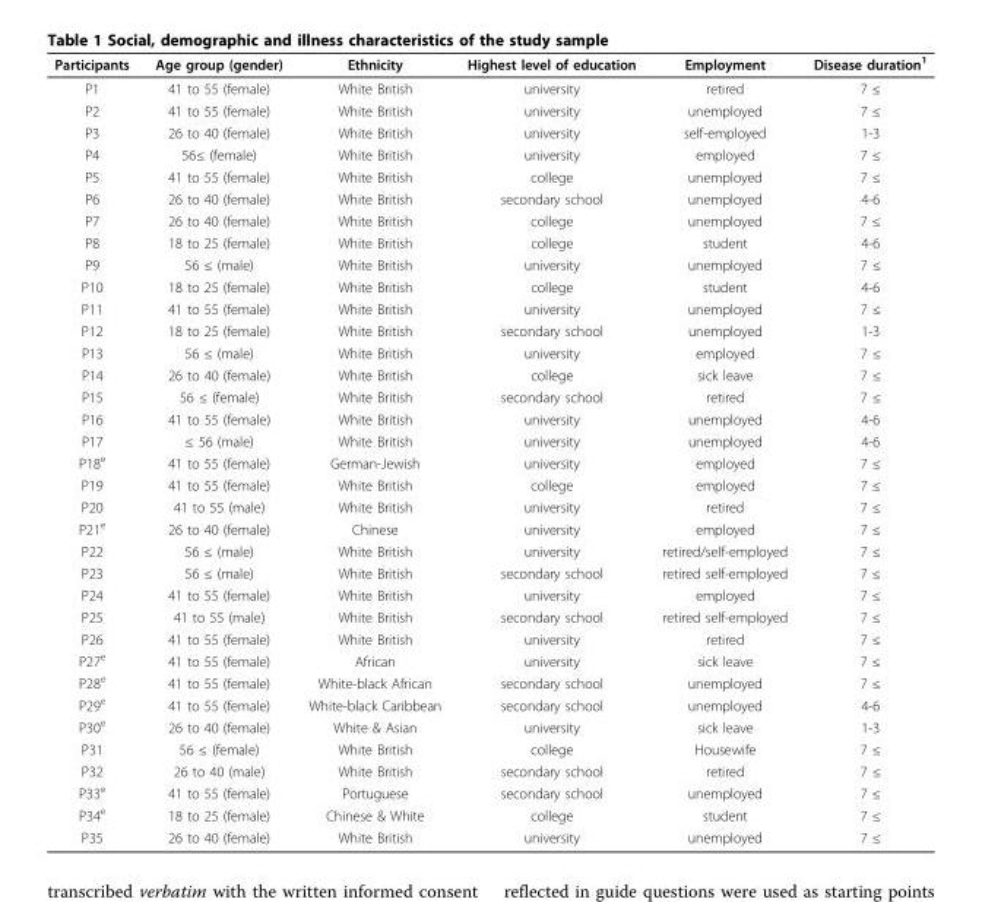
<table><thead><tr><td>Participants</td><td>Age group (gender)</td><td>Ethnicity</td><td>Highest level of education</td><td>Employment</td><td>Disease duration<sup>1</sup></td></tr></thead><tbody><tr><td>P1</td><td>41 to 55 (female)</td><td>White British</td><td>university</td><td>retired</td><td>7 ≤</td></tr><tr><td>P2</td><td>41 to 55 (female)</td><td>White British</td><td>university</td><td>unemployed</td><td>7 ≤</td></tr><tr><td>P3</td><td>26 to 40 (female)</td><td>White British</td><td>university</td><td>self-employed</td><td>1-3</td></tr><tr><td>P4</td><td>56≤ (female)</td><td>White British</td><td>university</td><td>employed</td><td>7 ≤</td></tr><tr><td>P5</td><td>41 to 55 (female)</td><td>White British</td><td>college</td><td>unemployed</td><td>7 ≤</td></tr><tr><td>P6</td><td>26 to 40 (female)</td><td>White British</td><td>secondary school</td><td>unemployed</td><td>4-6</td></tr><tr><td>P7</td><td>26 to 40 (female)</td><td>White British</td><td>college</td><td>unemployed</td><td>7 ≤</td></tr><tr><td>P8</td><td>18 to 25 (female)</td><td>White British</td><td>college</td><td>student</td><td>4-6</td></tr><tr><td>P9</td><td>56 ≤ (male)</td><td>White British</td><td>university</td><td>unemployed</td><td>7 ≤</td></tr><tr><td>P10</td><td>18 to 25 (female)</td><td>White British</td><td>college</td><td>student</td><td>4-6</td></tr><tr><td>P11</td><td>41 to 55 (female)</td><td>White British</td><td>university</td><td>unemployed</td><td>7 ≤</td></tr><tr><td>P12</td><td>18 to 25 (female)</td><td>White British</td><td>secondary school</td><td>unemployed</td><td>1-3</td></tr><tr><td>P13</td><td>56 ≤ (male)</td><td>White British</td><td>university</td><td>employed</td><td>7 ≤</td></tr><tr><td>P14</td><td>26 to 40 (female)</td><td>White British</td><td>college</td><td>sick leave</td><td>7 ≤</td></tr><tr><td>P15</td><td>56 ≤ (female)</td><td>White British</td><td>secondary school</td><td>retired</td><td>7 ≤</td></tr><tr><td>P16</td><td>41 to 55 (female)</td><td>White British</td><td>university</td><td>unemployed</td><td>4-6</td></tr><tr><td>P17</td><td>≤ 56 (male)</td><td>White British</td><td>university</td><td>unemployed</td><td>4-6</td></tr><tr><td>P18<sup>e</sup></td><td>41 to 55 (female)</td><td>German-Jewish</td><td>university</td><td>employed</td><td>7 ≤</td></tr><tr><td>P19</td><td>41 to 55 (female)</td><td>White British</td><td>college</td><td>employed</td><td>7 ≤</td></tr><tr><td>P20</td><td>41 to 55 (male)</td><td>White British</td><td>university</td><td>retired</td><td>7 ≤</td></tr><tr><td>P21<sup>e</sup></td><td>26 to 40 (female)</td><td>Chinese</td><td>university</td><td>employed</td><td>7 ≤</td></tr><tr><td>P22</td><td>56 ≤ (male)</td><td>White British</td><td>university</td><td>retired/self-employed</td><td>7 ≤</td></tr><tr><td>P23</td><td>56 ≤ (male)</td><td>White British</td><td>secondary school</td><td>retired self-employed</td><td>7 ≤</td></tr><tr><td>P24</td><td>41 to 55 (female)</td><td>White British</td><td>university</td><td>employed</td><td>7 ≤</td></tr><tr><td>P25</td><td>41 to 55 (male)</td><td>White British</td><td>secondary school</td><td>retired self-employed</td><td>7 ≤</td></tr><tr><td>P26</td><td>41 to 55 (female)</td><td>White British</td><td>university</td><td>retired</td><td>7 ≤</td></tr><tr><td>P27<sup>e</sup></td><td>41 to 55 (female)</td><td>African</td><td>university</td><td>sick leave</td><td>7 ≤</td></tr><tr><td>P28<sup>e</sup></td><td>41 to 55 (female)</td><td>White-black African</td><td>secondary school</td><td>unemployed</td><td>7 ≤</td></tr><tr><td>P29<sup>e</sup></td><td>41 to 55 (female)</td><td>White-black Caribbean</td><td>secondary school</td><td>unemployed</td><td>4-6</td></tr><tr><td>P30<sup>e</sup></td><td>26 to 40 (female)</td><td>White &amp; Asian</td><td>university</td><td>sick leave</td><td>1-3</td></tr><tr><td>P31</td><td>56 ≤ (female)</td><td>White British</td><td>college</td><td>Housewife</td><td>7 ≤</td></tr><tr><td>P32</td><td>26 to 40 (male)</td><td>White British</td><td>secondary school</td><td>retired</td><td>7 ≤</td></tr><tr><td>P33<sup>e</sup></td><td>41 to 55 (female)</td><td>Portuguese</td><td>secondary school</td><td>unemployed</td><td>7 ≤</td></tr><tr><td>P34<sup>e</sup></td><td>18 to 25 (female)</td><td>Chinese &amp; White</td><td>college</td><td>student</td><td>7 ≤</td></tr><tr><td>P35</td><td>26 to 40 (female)</td><td>White British</td><td>university</td><td>unemployed</td><td>7 ≤</td></tr></tbody></table>